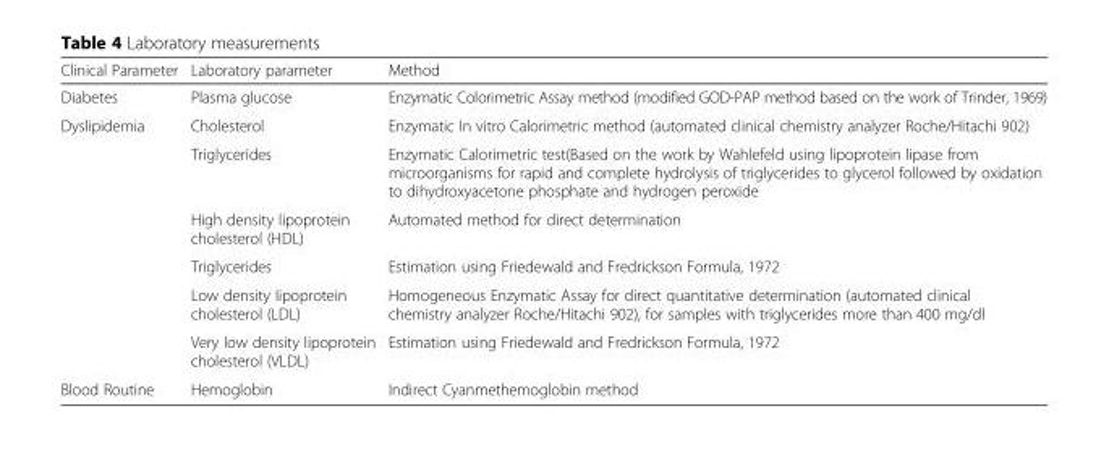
<table><thead><tr><td>Clinical Parameter</td><td>Laboratory parameter</td><td>Method</td></tr></thead><tbody><tr><td>Diabetes</td><td>Plasma glucose</td><td>Enzymatic Colorimetric Assay method (modified GOD-PAP method based on the work of Trinder, 1969)</td></tr><tr><td rowspan="6">Dyslipidemia</td><td>Cholesterol</td><td>Enzymatic In vitro Calorimetric method (automated clinical chemistry analyzer Roche/Hitachi 902)</td></tr><tr><td>Triglycerides</td><td>Enzymatic Calorimetric test(Based on the work by Wahlefeld using lipoprotein lipase from microorganisms for rapid and complete hydrolysis of triglycerides to glycerol followed by oxidation to dihydroxyacetone phosphate and hydrogen peroxide</td></tr><tr><td>High density lipoprotein cholesterol (HDL)</td><td>Automated method for direct determination</td></tr><tr><td>Triglycerides</td><td>Estimation using Friedewald and Fredrickson Formula, 1972</td></tr><tr><td>Low density lipoprotein cholesterol (LDL)</td><td>Homogeneous Enzymatic Assay for direct quantitative determination (automated clinical chemistry analyzer Roche/Hitachi 902), for samples with triglycerides more than 400 mg/dl</td></tr><tr><td>Very low density lipoprotein cholesterol (VLDL)</td><td>Estimation using Friedewald and Fredrickson Formula, 1972</td></tr><tr><td>Blood Routine</td><td>Hemoglobin</td><td>Indirect Cyanmethemoglobin method</td></tr></tbody></table>